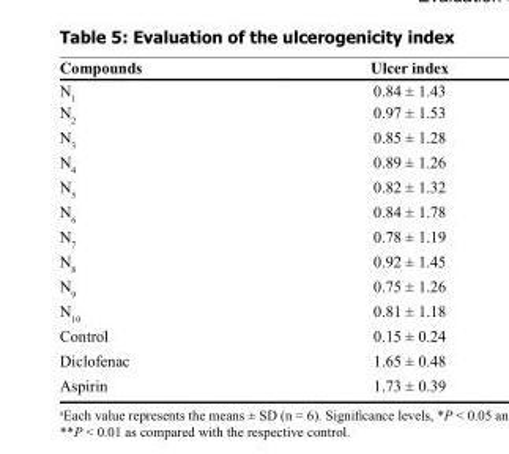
<table><thead><tr><td>Compounds</td><td>Ulcer index</td></tr></thead><tbody><tr><td>N<sub>1</sub></td><td>0.84 ± 1.43</td></tr><tr><td>N<sub>2</sub></td><td>0.97 ± 1.53</td></tr><tr><td>N<sub>3</sub></td><td>0.85 ± 1.28</td></tr><tr><td>N<sub>4</sub></td><td>0.89 ± 1.26</td></tr><tr><td>N<sub>5</sub></td><td>0.82 ± 1.32</td></tr><tr><td>N<sub>6</sub></td><td>0.84 ± 1.78</td></tr><tr><td>N<sub>7</sub></td><td>0.78 ± 1.19</td></tr><tr><td>N<sub>8</sub></td><td>0.92 ± 1.45</td></tr><tr><td>N<sub>9</sub></td><td>0.75 ± 1.26</td></tr><tr><td>N<sub>10</sub></td><td>0.81 ± 1.18</td></tr><tr><td>Control</td><td>0.15 ± 0.24</td></tr><tr><td>Diclofenac</td><td>1.65 ± 0.48</td></tr><tr><td>Aspirin</td><td>1.73 ± 0.39</td></tr></tbody></table>